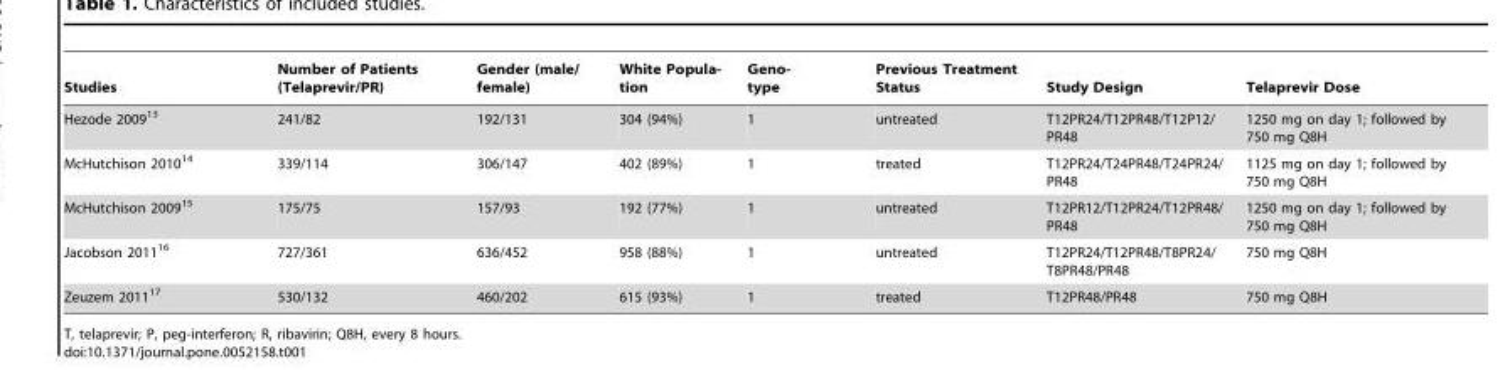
<table><thead><tr><td>Studies</td><td>Number of Patients (Telaprevir/PR)</td><td>Gender (male/ female)</td><td>White Popula- tion</td><td>Geno- type</td><td>Previous Treatment Status</td><td>Study Design</td><td>Telaprevir Dose</td></tr></thead><tbody><tr><td>Hezode 2009<sup>13</sup></td><td>241/82</td><td>192/131</td><td>304 (94%)</td><td>1</td><td>untreated</td><td>T12PR24/T12PR48/T12P12/ PR48</td><td>1250 mg on day 1; followed by 750 mg Q8H</td></tr><tr><td>McHutchison 2010<sup>14</sup></td><td>339/114</td><td>306/147</td><td>402 (89%)</td><td>1</td><td>treated</td><td>T12PR24/T24PR48/T24PR24/ PR48</td><td>1125 mg on day 1; followed by 750 mg Q8H</td></tr><tr><td>McHutchison 2009<sup>15</sup></td><td>175/75</td><td>157/93</td><td>192 (77%)</td><td>1</td><td>untreated</td><td>T12PR12/T12PR24/T12PR48/ PR48</td><td>1250 mg on day 1; followed by 750 mg Q8H</td></tr><tr><td>Jacobson 2011<sup>16</sup></td><td>727/361</td><td>636/452</td><td>958 (88%)</td><td>1</td><td>untreated</td><td>T12PR24/T12PR48/T8PR24/ T8PR48/PR48</td><td>750 mg Q8H</td></tr><tr><td>Zeuzem 2011<sup>17</sup></td><td>530/132</td><td>460/202</td><td>615 (93%)</td><td>1</td><td>treated</td><td>T12PR48/PR48</td><td>750 mg Q8H</td></tr></tbody></table>